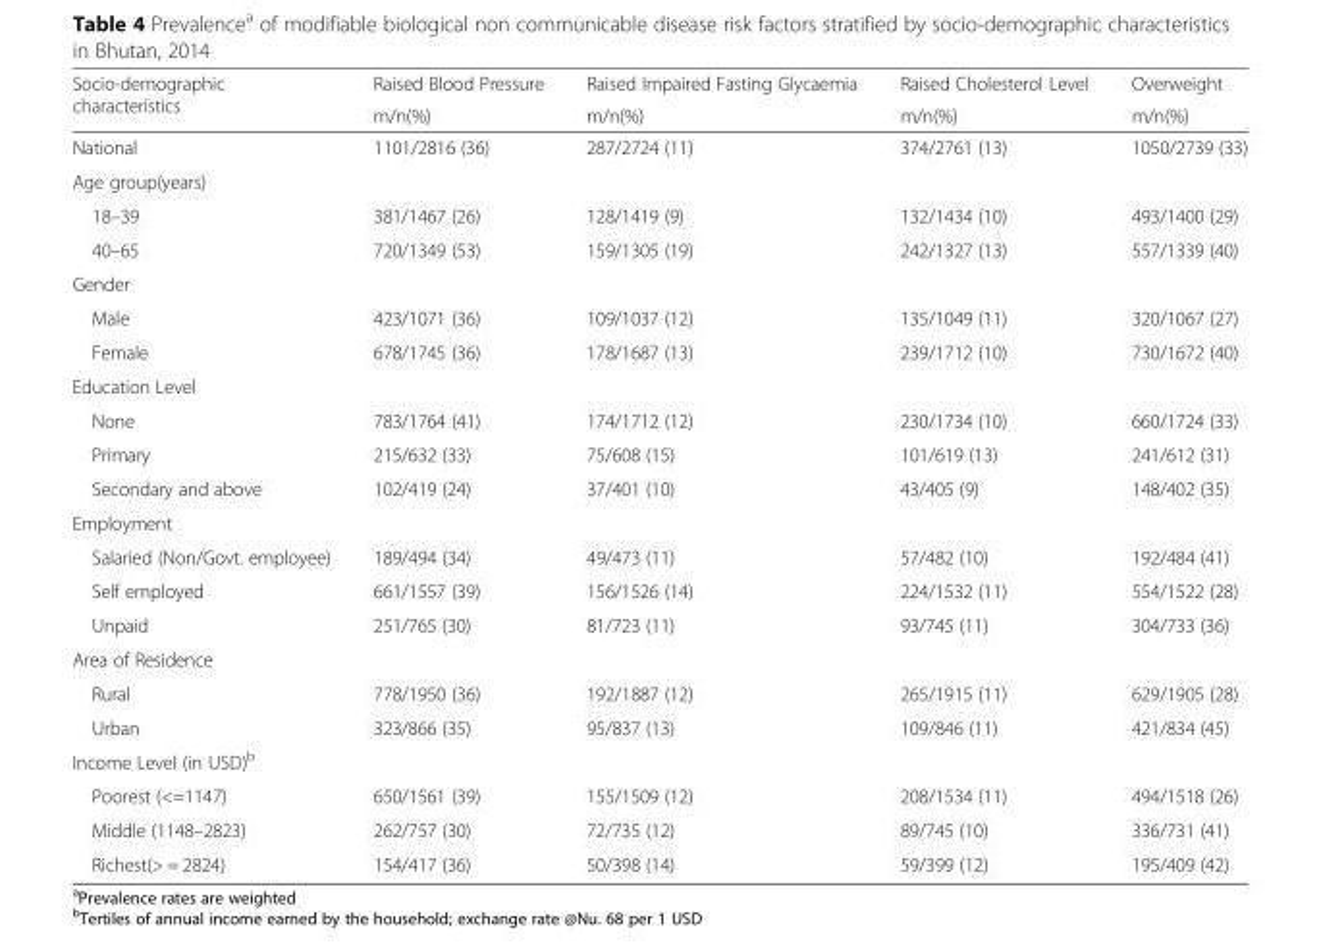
<table><thead><tr><td rowspan="2">Socio-demographic characteristics</td><td rowspan="2">Raised Blood Pressure m/n(%)</td><td rowspan="2">Raised Impaired Fasting Glycaemia m/n(%)</td><td rowspan="2">Raised Cholesterol Level m/n(%)</td><td rowspan="2">Overweight m/n(%)</td></tr><tr></tr></thead><tbody><tr><td>National</td><td>1101/2816 (36)</td><td>287/2724 (11)</td><td>374/2761 (13)</td><td>1050/2739 (33)</td></tr><tr><td colspan="5">Age group(years)</td></tr><tr><td>18–39</td><td>381/1467 (26)</td><td>128/1419 (9)</td><td>132/1434 (10)</td><td>493/1400 (29)</td></tr><tr><td>40–65</td><td>720/1349 (53)</td><td>159/1305 (19)</td><td>242/1327 (13)</td><td>557/1339 (40)</td></tr><tr><td colspan="5">Gender</td></tr><tr><td>Male</td><td>423/1071 (36)</td><td>109/1037 (12)</td><td>135/1049 (11)</td><td>320/1067 (27)</td></tr><tr><td>Female</td><td>678/1745 (36)</td><td>178/1687 (13)</td><td>239/1712 (10)</td><td>730/1672 (40)</td></tr><tr><td colspan="5">Education Level</td></tr><tr><td>None</td><td>783/1764 (41)</td><td>174/1712 (12)</td><td>230/1734 (10)</td><td>660/1724 (33)</td></tr><tr><td>Primary</td><td>215/632 (33)</td><td>75/608 (15)</td><td>101/619 (13)</td><td>241/612 (31)</td></tr><tr><td>Secondary and above</td><td>102/419 (24)</td><td>37/401 (10)</td><td>43/405 (9)</td><td>148/402 (35)</td></tr><tr><td colspan="5">Employment</td></tr><tr><td>Salaried (Non/Govt. employee)</td><td>189/494 (34)</td><td>49/473 (11)</td><td>57/482 (10)</td><td>192/484 (41)</td></tr><tr><td>Self employed</td><td>661/1557 (39)</td><td>156/1526 (14)</td><td>224/1532 (11)</td><td>554/1522 (28)</td></tr><tr><td>Unpaid</td><td>251/765 (30)</td><td>81/723 (11)</td><td>93/745 (11)</td><td>304/733 (36)</td></tr><tr><td colspan="5">Area of Residence</td></tr><tr><td>Rural</td><td>778/1950 (36)</td><td>192/1887 (12)</td><td>265/1915 (11)</td><td>629/1905 (28)</td></tr><tr><td>Urban</td><td>323/866 (35)</td><td>95/837 (13)</td><td>109/846 (11)</td><td>421/834 (45)</td></tr><tr><td colspan="5">Income Level (in USD)<sup>b</sup></td></tr><tr><td>Poorest (&lt;=1147)</td><td>650/1561 (39)</td><td>155/1509 (12)</td><td>208/1534 (11)</td><td>494/1518 (26)</td></tr><tr><td>Middle (1148–2823)</td><td>262/757 (30)</td><td>72/735 (12)</td><td>89/745 (10)</td><td>336/731 (41)</td></tr><tr><td>Richest(&gt; = 2824)</td><td>154/417 (36)</td><td>50/398 (14)</td><td>59/399 (12)</td><td>195/409 (42)</td></tr></tbody></table>